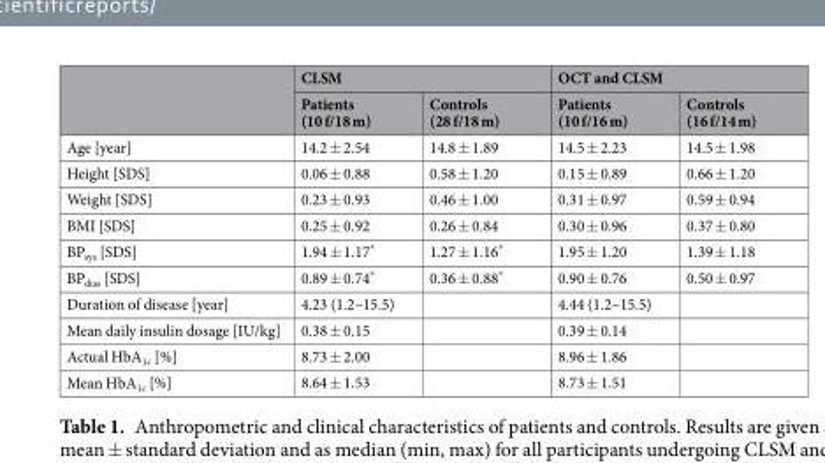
<table><thead><tr><td rowspan="2"></td><td colspan="2">CLSM</td><td colspan="2">OCT and CLSM</td></tr><tr><td>Patients (10 f/18 m)</td><td>Controls (28 f/18 m)</td><td>Patients (10 f/16 m)</td><td>Controls (16 f/14 m)</td></tr></thead><tbody><tr><td>Age [year]</td><td>14.2 ± 2.54</td><td>14.8 ± 1.89</td><td>14.5 ± 2.23</td><td>14.5 ± 1.98</td></tr><tr><td>Height [SDS]</td><td>0.06 ± 0.88</td><td>0.58 ± 1.20</td><td>0.15 ± 0.89</td><td>0.66 ± 1.20</td></tr><tr><td>Weight [SDS]</td><td>0.23 ± 0.93</td><td>0.46 ± 1.00</td><td>0.31 ± 0.97</td><td>0.59 ± 0.94</td></tr><tr><td>BMI [SDS]</td><td>0.25 ± 0.92</td><td>0.26 ± 0.84</td><td>0.30 ± 0.96</td><td>0.37 ± 0.80</td></tr><tr><td>BP<sub>sys</sub> [SDS]</td><td>1.94 ± 1.17*</td><td>1.27 ± 1.16*</td><td>1.95 ± 1.20</td><td>1.39 ± 1.18</td></tr><tr><td>BP<sub>dias</sub> [SDS]</td><td>0.89 ± 0.74*</td><td>0.36 ± 0.88*</td><td>0.90 ± 0.76</td><td>0.50 ± 0.97</td></tr><tr><td>Duration of disease [year]</td><td>4.23 (1.2–15.5)</td><td></td><td>4.44 (1.2–15.5)</td><td></td></tr><tr><td>Mean daily insulin dosage [IU/kg]</td><td>0.38 ± 0.15</td><td></td><td>0.39 ± 0.14</td><td></td></tr><tr><td>Actual HbA<sub>1c</sub> [%]</td><td>8.73 ± 2.00</td><td></td><td>8.96 ± 1.86</td><td></td></tr><tr><td>Mean HbA<sub>1c</sub> [%]</td><td>8.64 ± 1.53</td><td></td><td>8.73 ± 1.51</td><td></td></tr></tbody></table>